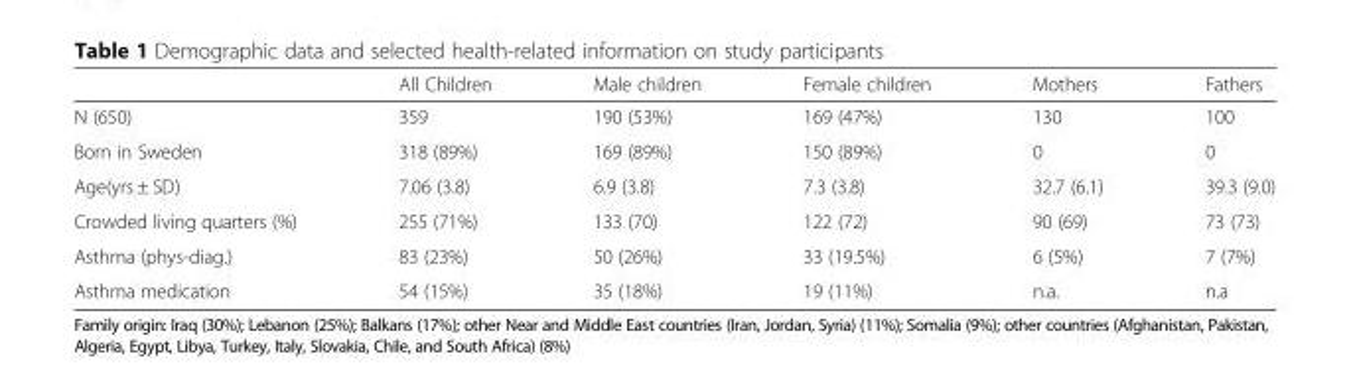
<table><thead><tr><td></td><td>All Children</td><td>Male children</td><td>Female children</td><td>Mothers</td><td>Fathers</td></tr></thead><tbody><tr><td>N (650)</td><td>359</td><td>190 (53%)</td><td>169 (47%)</td><td>130</td><td>100</td></tr><tr><td>Born in Sweden</td><td>318 (89%)</td><td>169 (89%)</td><td>150 (89%)</td><td>0</td><td>0</td></tr><tr><td>Age(yrs ± SD)</td><td>7.06 (3.8)</td><td>6.9 (3.8)</td><td>7.3 (3.8)</td><td>32.7 (6.1)</td><td>39.3 (9.0)</td></tr><tr><td>Crowded living quarters (%)</td><td>255 (71%)</td><td>133 (70)</td><td>122 (72)</td><td>90 (69)</td><td>73 (73)</td></tr><tr><td>Asthma (phys-diag.)</td><td>83 (23%)</td><td>50 (26%)</td><td>33 (19.5%)</td><td>6 (5%)</td><td>7 (7%)</td></tr><tr><td>Asthma medication</td><td>54 (15%)</td><td>35 (18%)</td><td>19 (11%)</td><td>n.a.</td><td>n.a</td></tr></tbody></table>